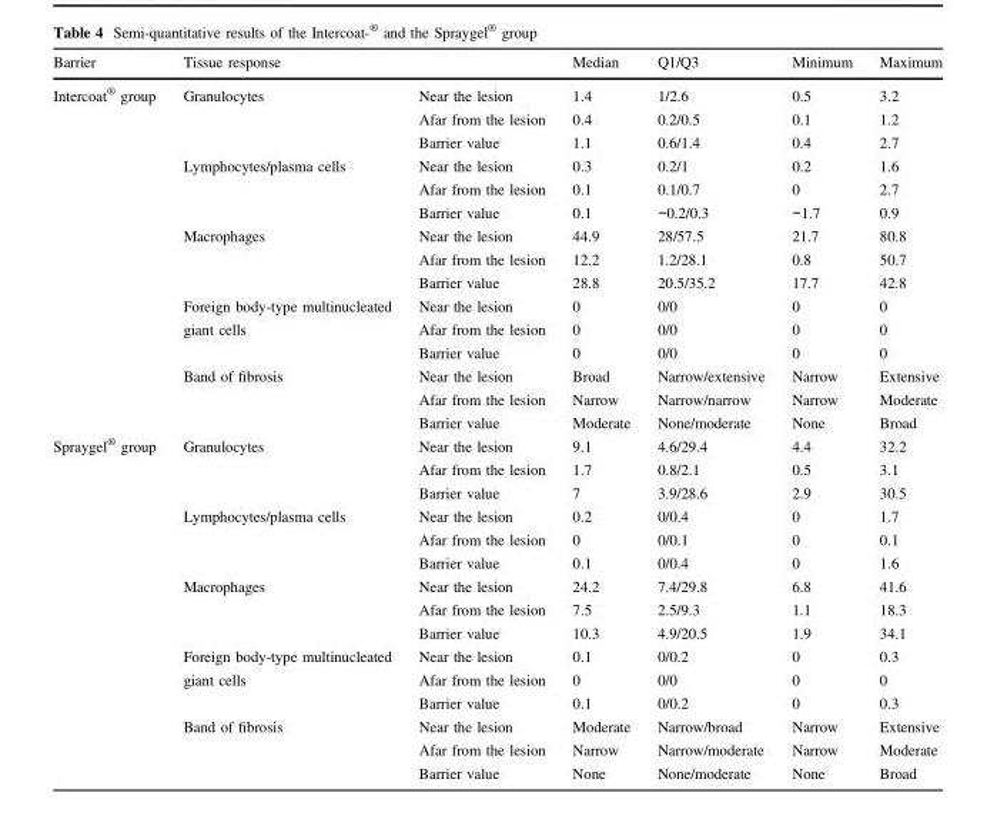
<table><thead><tr><td rowspan="2">Barrier Intercoat<sup>®</sup> group</td><td colspan="2">Tissue response</td><td rowspan="2">Median 1.4</td><td rowspan="2">Q1/Q3 1/2.6</td><td rowspan="2">Minimum 0.5</td><td rowspan="2">Maximum 3.2</td></tr><tr><td>Granulocytes</td><td>Near the lesion</td></tr></thead><tbody><tr><td></td><td></td><td>Afar from the lesion</td><td>0.4</td><td>0.2/0.5</td><td>0.1</td><td>1.2</td></tr><tr><td></td><td></td><td>Barrier value</td><td>1.1</td><td>0.6/1.4</td><td>0.4</td><td>2.7</td></tr><tr><td></td><td>Lymphocytes/plasma cells</td><td>Near the lesion</td><td>0.3</td><td>0.2/1</td><td>0.2</td><td>1.6</td></tr><tr><td></td><td></td><td>Afar from the lesion</td><td>0.1</td><td>0.1/0.7</td><td>0</td><td>2.7</td></tr><tr><td></td><td></td><td>Barrier value</td><td>0.1</td><td>−0.2/0.3</td><td>−1.7</td><td>0.9</td></tr><tr><td></td><td>Macrophages</td><td>Near the lesion</td><td>44.9</td><td>28/57.5</td><td>21.7</td><td>80.8</td></tr><tr><td></td><td></td><td>Afar from the lesion</td><td>12.2</td><td>1.2/28.1</td><td>0.8</td><td>50.7</td></tr><tr><td></td><td></td><td>Barrier value</td><td>28.8</td><td>20.5/35.2</td><td>17.7</td><td>42.8</td></tr><tr><td></td><td>Foreign body-type multinucleated</td><td>Near the lesion</td><td>0</td><td>0/0</td><td>0</td><td>0</td></tr><tr><td></td><td>giant cells</td><td>Afar from the lesion</td><td>0</td><td>0/0</td><td>0</td><td>0</td></tr><tr><td></td><td></td><td>Barrier value</td><td>0</td><td>0/0</td><td>0</td><td>0</td></tr><tr><td></td><td>Band of fibrosis</td><td>Near the lesion</td><td>Broad</td><td>Narrow/extensive</td><td>Narrow</td><td>Extensive</td></tr><tr><td></td><td></td><td>Afar from the lesion</td><td>Narrow</td><td>Narrow/narrow</td><td>Narrow</td><td>Moderate</td></tr><tr><td></td><td></td><td>Barrier value</td><td>Moderate</td><td>None/moderate</td><td>None</td><td>Broad</td></tr><tr><td rowspan="15">Spraygel<sup>®</sup> group</td><td>Granulocytes</td><td>Near the lesion</td><td>9.1</td><td>4.6/29.4</td><td>4.4</td><td>32.2</td></tr><tr><td></td><td>Afar from the lesion</td><td>1.7</td><td>0.8/2.1</td><td>0.5</td><td>3.1</td></tr><tr><td></td><td>Barrier value</td><td>7</td><td>3.9/28.6</td><td>2.9</td><td>30.5</td></tr><tr><td>Lymphocytes/plasma cells</td><td>Near the lesion</td><td>0.2</td><td>0/0.4</td><td>0</td><td>1.7</td></tr><tr><td></td><td>Afar from the lesion</td><td>0</td><td>0/0.1</td><td>0</td><td>0.1</td></tr><tr><td></td><td>Barrier value</td><td>0.1</td><td>0/0.4</td><td>0</td><td>1.6</td></tr><tr><td>Macrophages</td><td>Near the lesion</td><td>24.2</td><td>7.4/29.8</td><td>6.8</td><td>41.6</td></tr><tr><td></td><td>Afar from the lesion</td><td>7.5</td><td>2.5/9.3</td><td>1.1</td><td>18.3</td></tr><tr><td></td><td>Barrier value</td><td>10.3</td><td>4.9/20.5</td><td>1.9</td><td>34.1</td></tr><tr><td>Foreign body-type multinucleated</td><td>Near the lesion</td><td>0.1</td><td>0/0.2</td><td>0</td><td>0.3</td></tr><tr><td>giant cells</td><td>Afar from the lesion</td><td>0</td><td>0/0</td><td>0</td><td>0</td></tr><tr><td></td><td>Barrier value</td><td>0.1</td><td>0/0.2</td><td>0</td><td>0.3</td></tr><tr><td>Band of fibrosis</td><td>Near the lesion</td><td>Moderate</td><td>Narrow/broad</td><td>Narrow</td><td>Extensive</td></tr><tr><td></td><td>Afar from the lesion</td><td>Narrow</td><td>Narrow/moderate</td><td>Narrow</td><td>Moderate</td></tr><tr><td></td><td>Barrier value</td><td>None</td><td>None/moderate</td><td>None</td><td>Broad</td></tr></tbody></table>